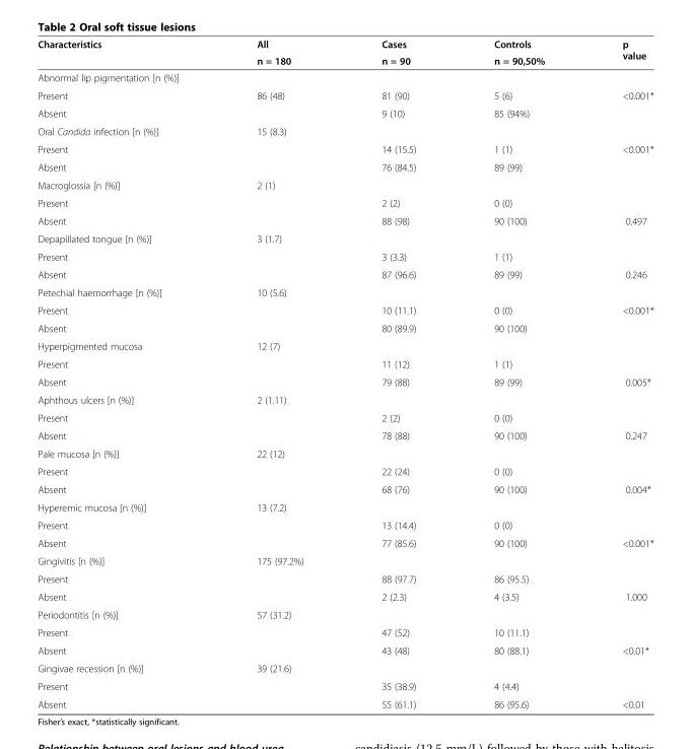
<table><thead><tr><td rowspan="2">Characteristics</td><td rowspan="2">All n = 180</td><td rowspan="2">Cases n = 90</td><td rowspan="2">Controls n = 90,50%</td><td rowspan="2">p value</td></tr><tr></tr></thead><tbody><tr><td colspan="5">Abnormal lip pigmentation [n (%)]</td></tr><tr><td>Present</td><td>86 (48)</td><td>81 (90)</td><td>5 (6)</td><td>&lt;0.001*</td></tr><tr><td>Absent</td><td></td><td>9 (10)</td><td>85 (94%)</td><td></td></tr><tr><td>Oral Candida infection [n (%)]</td><td>15 (8.3)</td><td></td><td></td><td></td></tr><tr><td>Present</td><td></td><td>14 (15.5)</td><td>1 (1)</td><td>&lt;0.001*</td></tr><tr><td>Absent</td><td></td><td>76 (84.5)</td><td>89 (99)</td><td></td></tr><tr><td>Macroglossia [n (%)]</td><td>2 (1)</td><td></td><td></td><td></td></tr><tr><td>Present</td><td></td><td>2 (2)</td><td>0 (0)</td><td></td></tr><tr><td>Absent</td><td></td><td>88 (98)</td><td>90 (100)</td><td>0.497</td></tr><tr><td>Depapillated tongue [n (%)]</td><td>3 (1.7)</td><td></td><td></td><td></td></tr><tr><td>Present</td><td></td><td>3 (3.3)</td><td>1 (1)</td><td></td></tr><tr><td>Absent</td><td></td><td>87 (96.6)</td><td>89 (99)</td><td>0.246</td></tr><tr><td>Petechial haemorrhage [n (%)]</td><td>10 (5.6)</td><td></td><td></td><td></td></tr><tr><td>Present</td><td></td><td>10 (11.1)</td><td>0 (0)</td><td>&lt;0.001*</td></tr><tr><td>Absent</td><td></td><td>80 (89.9)</td><td>90 (100)</td><td></td></tr><tr><td>Hyperpigmented mucosa</td><td>12 (7)</td><td></td><td></td><td></td></tr><tr><td>Present</td><td></td><td>11 (12)</td><td>1 (1)</td><td></td></tr><tr><td>Absent</td><td></td><td>79 (88)</td><td>89 (99)</td><td>0.005*</td></tr><tr><td>Aphthous ulcers [n (%)]</td><td>2 (1.11)</td><td></td><td></td><td></td></tr><tr><td>Present</td><td></td><td>2 (2)</td><td>0 (0)</td><td></td></tr><tr><td>Absent</td><td></td><td>78 (88)</td><td>90 (100)</td><td>0.247</td></tr><tr><td>Pale mucosa [n (%)]</td><td>22 (12)</td><td></td><td></td><td></td></tr><tr><td>Present</td><td></td><td>22 (24)</td><td>0 (0)</td><td></td></tr><tr><td>Absent</td><td></td><td>68 (76)</td><td>90 (100)</td><td>0.004*</td></tr><tr><td>Hyperemic mucosa [n (%)]</td><td>13 (7.2)</td><td></td><td></td><td></td></tr><tr><td>Present</td><td></td><td>13 (14.4)</td><td>0 (0)</td><td></td></tr><tr><td>Absent</td><td></td><td>77 (85.6)</td><td>90 (100)</td><td>&lt;0.001*</td></tr><tr><td>Gingivitis [n (%)]</td><td>175 (97.2%)</td><td></td><td></td><td></td></tr><tr><td>Present</td><td></td><td>88 (97.7)</td><td>86 (95.5)</td><td></td></tr><tr><td>Absent</td><td></td><td>2 (2.3)</td><td>4 (3.5)</td><td>1.000</td></tr><tr><td>Periodontitis [n (%)]</td><td>57 (31.2)</td><td></td><td></td><td></td></tr><tr><td>Present</td><td></td><td>47 (52)</td><td>10 (11.1)</td><td></td></tr><tr><td>Absent</td><td></td><td>43 (48)</td><td>80 (88.1)</td><td>&lt;0.01*</td></tr><tr><td>Gingivae recession [n (%)]</td><td>39 (21.6)</td><td></td><td></td><td></td></tr><tr><td>Present</td><td></td><td>35 (38.9)</td><td>4 (4.4)</td><td></td></tr><tr><td>Absent</td><td></td><td>55 (61.1)</td><td>86 (95.6)</td><td>&lt;0.01</td></tr></tbody></table>